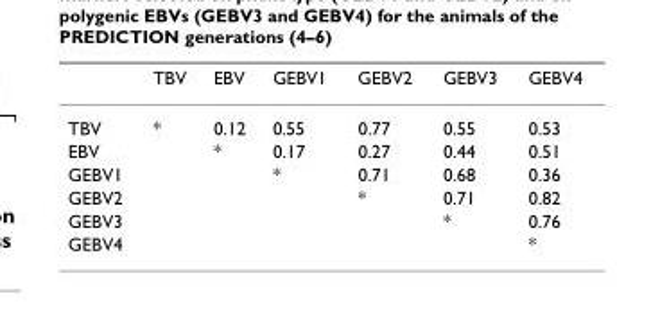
<table><thead><tr><td></td><td>TBV</td><td>EBV</td><td>GEBV1</td><td>GEBV2</td><td>GEBV3</td><td>GEBV4</td></tr></thead><tbody><tr><td>TBV</td><td>*</td><td>0.12</td><td>0.55</td><td>0.77</td><td>0.55</td><td>0.53</td></tr><tr><td>EBV</td><td></td><td>*</td><td>0.17</td><td>0.27</td><td>0.44</td><td>0.51</td></tr><tr><td>GEBV1</td><td></td><td></td><td>*</td><td>0.71</td><td>0.68</td><td>0.36</td></tr><tr><td>GEBV2</td><td></td><td></td><td></td><td>*</td><td>0.71</td><td>0.82</td></tr><tr><td>GEBV3</td><td></td><td></td><td></td><td></td><td>*</td><td>0.76</td></tr><tr><td>GEBV4</td><td></td><td></td><td></td><td></td><td></td><td>*</td></tr></tbody></table>